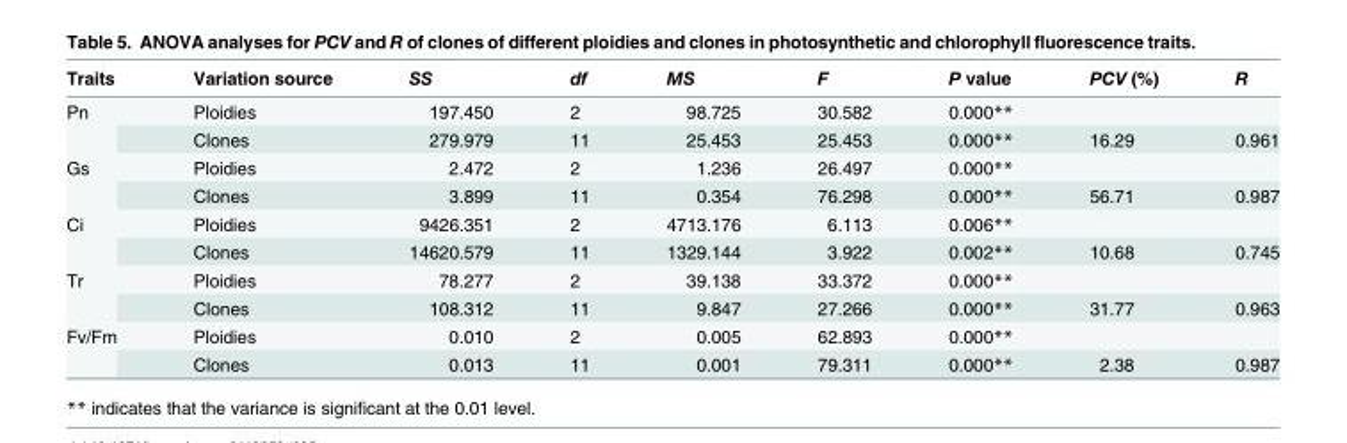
<table><thead><tr><td>Traits</td><td>Variation source</td><td>SS</td><td>df</td><td>MS</td><td>F</td><td>P value</td><td>PCV (%)</td><td>R</td></tr></thead><tbody><tr><td rowspan="2">Pn</td><td>Ploidies</td><td>197.450</td><td>2</td><td>98.725</td><td>30.582</td><td>0.000**</td><td></td><td></td></tr><tr><td>Clones</td><td>279.979</td><td>11</td><td>25.453</td><td>25.453</td><td>0.000**</td><td>16.29</td><td>0.961</td></tr><tr><td rowspan="2">Gs</td><td>Ploidies</td><td>2.472</td><td>2</td><td>1.236</td><td>26.497</td><td>0.000**</td><td></td><td></td></tr><tr><td>Clones</td><td>3.899</td><td>11</td><td>0.354</td><td>76.298</td><td>0.000**</td><td>56.71</td><td>0.987</td></tr><tr><td rowspan="2">Ci</td><td>Ploidies</td><td>9426.351</td><td>2</td><td>4713.176</td><td>6.113</td><td>0.006**</td><td></td><td></td></tr><tr><td>Clones</td><td>14620.579</td><td>11</td><td>1329.144</td><td>3.922</td><td>0.002**</td><td>10.68</td><td>0.745</td></tr><tr><td rowspan="2">Tr</td><td>Ploidies</td><td>78.277</td><td>2</td><td>39.138</td><td>33.372</td><td>0.000**</td><td></td><td></td></tr><tr><td>Clones</td><td>108.312</td><td>11</td><td>9.847</td><td>27.266</td><td>0.000**</td><td>31.77</td><td>0.963</td></tr><tr><td rowspan="2">Fv/Fm</td><td>Ploidies</td><td>0.010</td><td>2</td><td>0.005</td><td>62.893</td><td>0.000**</td><td></td><td></td></tr><tr><td>Clones</td><td>0.013</td><td>11</td><td>0.001</td><td>79.311</td><td>0.000**</td><td>2.38</td><td>0.987</td></tr></tbody></table>